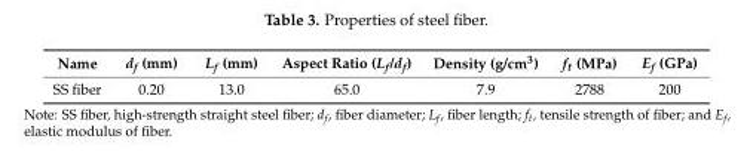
<table><thead><tr><td>Name</td><td>d<sub>f</sub> (mm)</td><td>L<sub>f</sub> (mm)</td><td>Aspect Ratio (L<sub>f</sub>/d<sub>f</sub>)</td><td>Density (g/cm<sup>3</sup>)</td><td>f<sub>t</sub> (MPa)</td><td>E<sub>f</sub> (GPa)</td></tr></thead><tbody><tr><td>SS fiber</td><td>0.20</td><td>13.0</td><td>65.0</td><td>7.9</td><td>2788</td><td>200</td></tr></tbody></table>